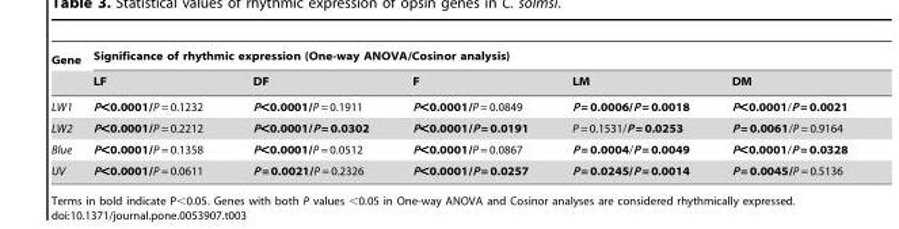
<table><thead><tr><td rowspan="2">Gene</td><td colspan="5">Significance of rhythmic expression (One-way ANOVA/Cosinor analysis)</td></tr><tr><td>LF</td><td>DF</td><td>F</td><td>LM</td><td>DM</td></tr></thead><tbody><tr><td>LW1</td><td>P&lt;0.0001/P = 0.1232</td><td>P&lt;0.0001/P = 0.1911</td><td>P&lt;0.0001/P = 0.0849</td><td>P = 0.0006/P = 0.0018</td><td>P&lt;0.0001/P = 0.0021</td></tr><tr><td>LW2</td><td>P&lt;0.0001/P = 0.2212</td><td>P&lt;0.0001/P = 0.0302</td><td>P&lt;0.0001/P = 0.0191</td><td>P = 0.1531/P = 0.0253</td><td>P = 0.0061/P = 0.9164</td></tr><tr><td>Blue</td><td>P&lt;0.0001/P = 0.1358</td><td>P&lt;0.0001/P = 0.0512</td><td>P&lt;0.0001/P = 0.0867</td><td>P = 0.0004/P = 0.0049</td><td>P&lt;0.0001/P = 0.0328</td></tr><tr><td>UV</td><td>P&lt;0.0001/P = 0.0611</td><td>P = 0.0021/P = 0.2326</td><td>P&lt;0.0001/P = 0.0257</td><td>P = 0.0245/P = 0.0014</td><td>P = 0.0045/P = 0.5136</td></tr></tbody></table>